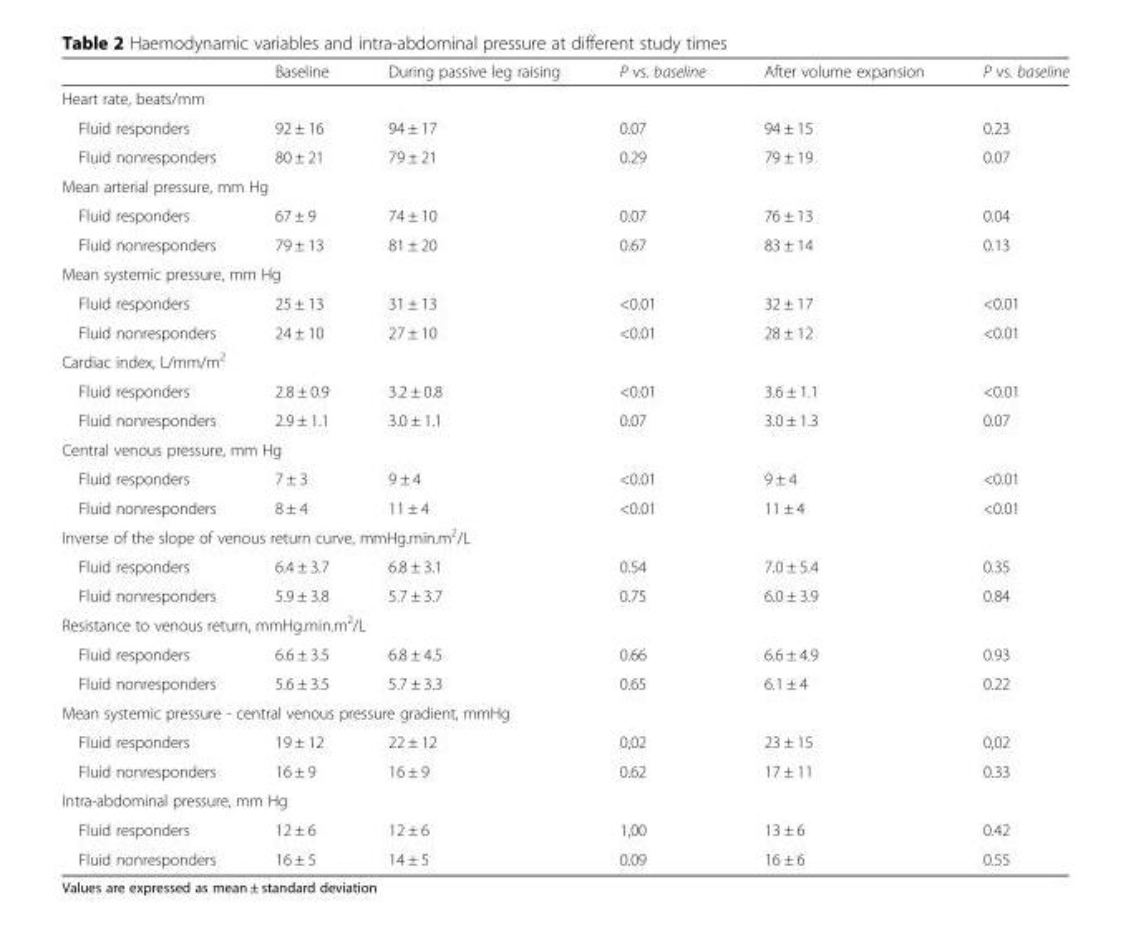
<table><thead><tr><td></td><td>Baseline</td><td>During passive leg raising</td><td>P vs. baseline</td><td>After volume expansion</td><td>P vs. baseline</td></tr></thead><tbody><tr><td colspan="6">Heart rate, beats/mm</td></tr><tr><td>Fluid responders</td><td>92 ± 16</td><td>94 ± 17</td><td>0.07</td><td>94 ± 15</td><td>0.23</td></tr><tr><td>Fluid nonresponders</td><td>80 ± 21</td><td>79 ± 21</td><td>0.29</td><td>79 ± 19</td><td>0.07</td></tr><tr><td colspan="6">Mean arterial pressure, mm Hg</td></tr><tr><td>Fluid responders</td><td>67 ± 9</td><td>74 ± 10</td><td>0.07</td><td>76 ± 13</td><td>0.04</td></tr><tr><td>Fluid nonresponders</td><td>79 ± 13</td><td>81 ± 20</td><td>0.67</td><td>83 ± 14</td><td>0.13</td></tr><tr><td colspan="6">Mean systemic pressure, mm Hg</td></tr><tr><td>Fluid responders</td><td>25 ± 13</td><td>31 ± 13</td><td>&lt;0.01</td><td>32 ± 17</td><td>&lt;0.01</td></tr><tr><td>Fluid nonresponders</td><td>24 ± 10</td><td>27 ± 10</td><td>&lt;0.01</td><td>28 ± 12</td><td>&lt;0.01</td></tr><tr><td colspan="6">Cardiac index, L/mm/m<sup>2</sup></td></tr><tr><td>Fluid responders</td><td>2.8 ± 0.9</td><td>3.2 ± 0.8</td><td>&lt;0.01</td><td>3.6 ± 1.1</td><td>&lt;0.01</td></tr><tr><td>Fluid nonresponders</td><td>2.9 ± 1.1</td><td>3.0 ± 1.1</td><td>0.07</td><td>3.0 ± 1.3</td><td>0.07</td></tr><tr><td colspan="6">Central venous pressure, mm Hg</td></tr><tr><td>Fluid responders</td><td>7 ± 3</td><td>9 ± 4</td><td>&lt;0.01</td><td>9 ± 4</td><td>&lt;0.01</td></tr><tr><td>Fluid nonresponders</td><td>8 ± 4</td><td>11 ± 4</td><td>&lt;0.01</td><td>11 ± 4</td><td>&lt;0.01</td></tr><tr><td colspan="6">Inverse of the slope of venous return curve, mmHg.min.m<sup>2</sup>/L</td></tr><tr><td>Fluid responders</td><td>6.4 ± 3.7</td><td>6.8 ± 3.1</td><td>0.54</td><td>7.0 ± 5.4</td><td>0.35</td></tr><tr><td>Fluid nonresponders</td><td>5.9 ± 3.8</td><td>5.7 ± 3.7</td><td>0.75</td><td>6.0 ± 3.9</td><td>0.84</td></tr><tr><td colspan="6">Resistance to venous return, mmHg.min.m<sup>2</sup>/L</td></tr><tr><td>Fluid responders</td><td>6.6 ± 3.5</td><td>6.8 ± 4.5</td><td>0.66</td><td>6.6 ± 4.9</td><td>0.93</td></tr><tr><td>Fluid nonresponders</td><td>5.6 ± 3.5</td><td>5.7 ± 3.3</td><td>0.65</td><td>6.1 ± 4</td><td>0.22</td></tr><tr><td colspan="6">Mean systemic pressure - central venous pressure gradient, mmHg</td></tr><tr><td>Fluid responders</td><td>19 ± 12</td><td>22 ± 12</td><td>0,02</td><td>23 ± 15</td><td>0,02</td></tr><tr><td>Fluid nonresponders</td><td>16 ± 9</td><td>16 ± 9</td><td>0.62</td><td>17 ± 11</td><td>0.33</td></tr><tr><td colspan="6">Intra-abdominal pressure, mm Hg</td></tr><tr><td>Fluid responders</td><td>12 ± 6</td><td>12 ± 6</td><td>1,00</td><td>13 ± 6</td><td>0.42</td></tr><tr><td>Fluid nonresponders</td><td>16 ± 5</td><td>14 ± 5</td><td>0.09</td><td>16 ± 6</td><td>0.55</td></tr></tbody></table>